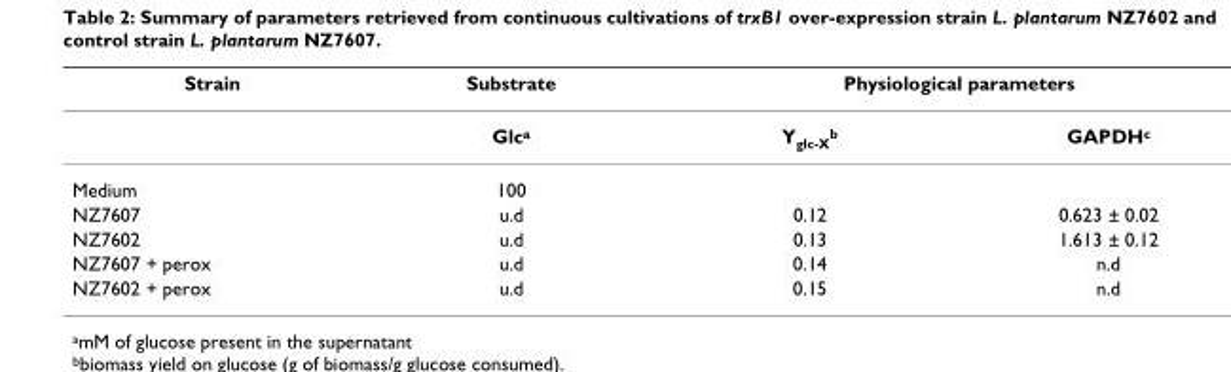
<table><thead><tr><td rowspan="2">Strain</td><td rowspan="2">Substrate Glca</td><td colspan="2">Physiological parameters</td></tr><tr><td>Yglc-Xb</td><td>GAPDHc</td></tr></thead><tbody><tr><td>Medium</td><td>100</td><td></td><td></td></tr><tr><td>NZ7607</td><td>u.d</td><td>0.12</td><td>0.623 ± 0.02</td></tr><tr><td>NZ7602</td><td>u.d</td><td>0.13</td><td>1.613 ± 0.12</td></tr><tr><td>NZ7607 + perox</td><td>u.d</td><td>0.14</td><td>n.d</td></tr><tr><td>NZ7602 + perox</td><td>u.d</td><td>0.15</td><td>n.d</td></tr></tbody></table>